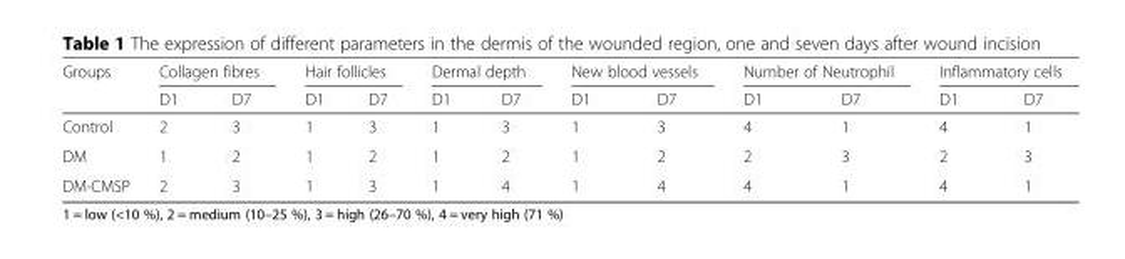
<table><thead><tr><td rowspan="2">Groups</td><td colspan="2">Collagen fibres</td><td colspan="2">Hair follicles</td><td colspan="2">Dermal depth</td><td colspan="2">New blood vessels</td><td colspan="2">Number of Neutrophil</td><td colspan="2">Inflammatory cells</td></tr><tr><td>D1</td><td>D7</td><td>D1</td><td>D7</td><td>D1</td><td>D7</td><td>D1</td><td>D7</td><td>D1</td><td>D7</td><td>D1</td><td>D7</td></tr></thead><tbody><tr><td>Control</td><td>2</td><td>3</td><td>1</td><td>3</td><td>1</td><td>3</td><td>1</td><td>3</td><td>4</td><td>1</td><td>4</td><td>1</td></tr><tr><td>DM</td><td>1</td><td>2</td><td>1</td><td>2</td><td>1</td><td>2</td><td>1</td><td>2</td><td>2</td><td>3</td><td>2</td><td>3</td></tr><tr><td>DM-CMSP</td><td>2</td><td>3</td><td>1</td><td>3</td><td>1</td><td>4</td><td>1</td><td>4</td><td>4</td><td>1</td><td>4</td><td>1</td></tr></tbody></table>